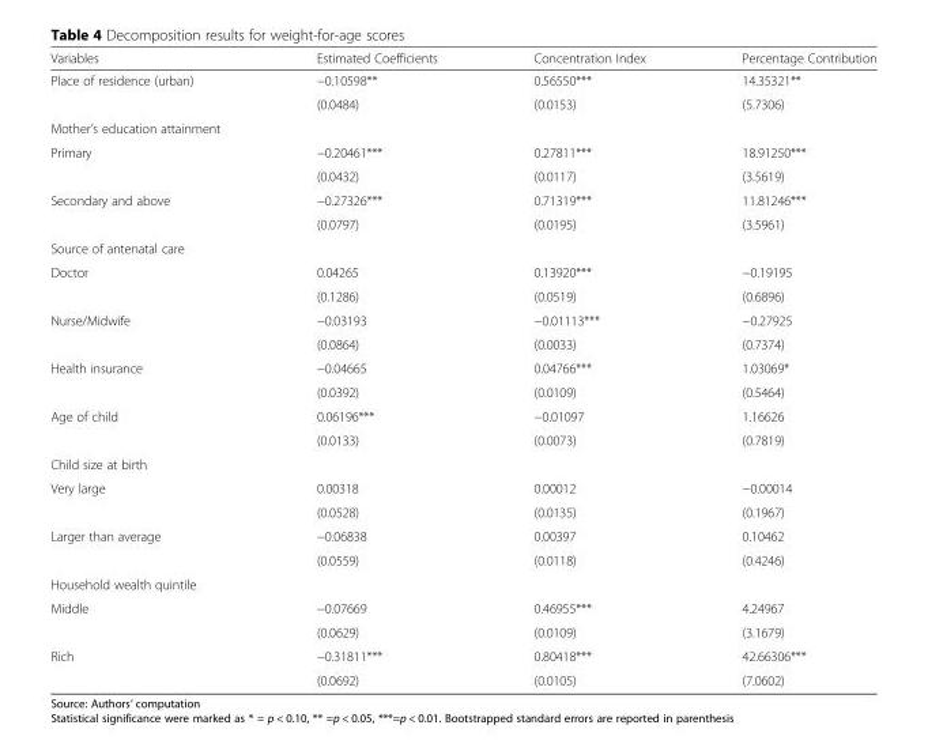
<table><thead><tr><td>Variables</td><td>Estimated Coefficients</td><td>Concentration Index</td><td>Percentage Contribution</td></tr></thead><tbody><tr><td rowspan="2">Place of residence (urban)</td><td>−0.10598**</td><td>0.56550***</td><td>14.35321**</td></tr><tr><td>(0.0484)</td><td>(0.0153)</td><td>(5.7306)</td></tr><tr><td colspan="4">Mother’s education attainment</td></tr><tr><td rowspan="2">Primary</td><td>−0.20461***</td><td>0.27811***</td><td>18.91250***</td></tr><tr><td>(0.0432)</td><td>(0.0117)</td><td>(3.5619)</td></tr><tr><td rowspan="2">Secondary and above</td><td>−0.27326***</td><td>0.71319***</td><td>11.81246***</td></tr><tr><td>(0.0797)</td><td>(0.0195)</td><td>(3.5961)</td></tr><tr><td colspan="4">Source of antenatal care</td></tr><tr><td rowspan="2">Doctor</td><td>0.04265</td><td>0.13920***</td><td>−0.19195</td></tr><tr><td>(0.1286)</td><td>(0.0519)</td><td>(0.6896)</td></tr><tr><td rowspan="2">Nurse/Midwife</td><td>−0.03193</td><td>−0.01113***</td><td>−0.27925</td></tr><tr><td>(0.0864)</td><td>(0.0033)</td><td>(0.7374)</td></tr><tr><td rowspan="2">Health insurance</td><td>−0.04665</td><td>0.04766***</td><td>1.03069*</td></tr><tr><td>(0.0392)</td><td>(0.0109)</td><td>(0.5464)</td></tr><tr><td rowspan="2">Age of child</td><td>0.06196***</td><td>−0.01097</td><td>1.16626</td></tr><tr><td>(0.0133)</td><td>(0.0073)</td><td>(0.7819)</td></tr><tr><td colspan="4">Child size at birth</td></tr><tr><td rowspan="2">Very large</td><td>0.00318</td><td>0.00012</td><td>−0.00014</td></tr><tr><td>(0.0528)</td><td>(0.0135)</td><td>(0.1967)</td></tr><tr><td rowspan="2">Larger than average</td><td>−0.06838</td><td>0.00397</td><td>0.10462</td></tr><tr><td>(0.0559)</td><td>(0.0118)</td><td>(0.4246)</td></tr><tr><td colspan="4">Household wealth quintile</td></tr><tr><td rowspan="2">Middle</td><td>−0.07669</td><td>0.46955***</td><td>4.24967</td></tr><tr><td>(0.0629)</td><td>(0.0109)</td><td>(3.1679)</td></tr><tr><td rowspan="2">Rich</td><td>−0.31811***</td><td>0.80418***</td><td>42.66306***</td></tr><tr><td>(0.0692)</td><td>(0.0105)</td><td>(7.0602)</td></tr></tbody></table>